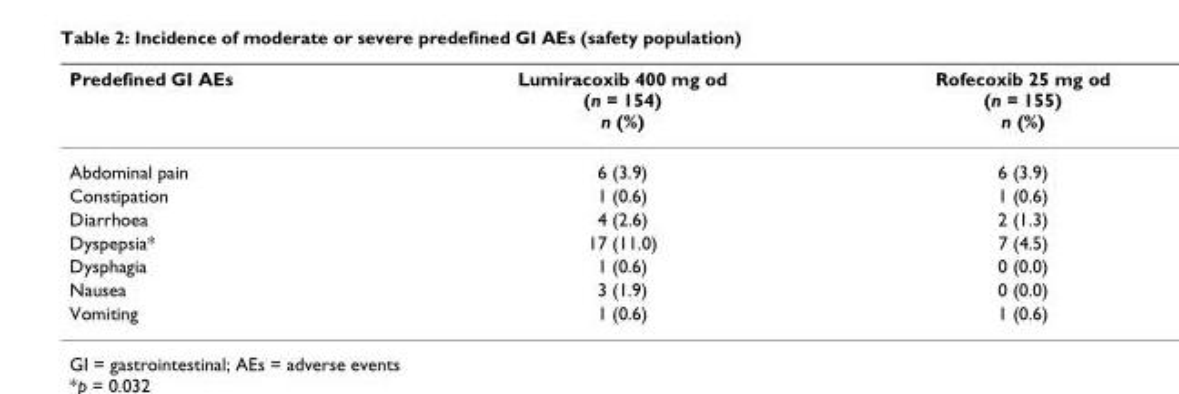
<table><thead><tr><td>Predefined GI AEs</td><td>Lumiracoxib 400 mg od (n = 154) n (%)</td><td>Rofecoxib 25 mg od (n = 155) n (%)</td></tr></thead><tbody><tr><td>Abdominal pain</td><td>6 (3.9)</td><td>6 (3.9)</td></tr><tr><td>Constipation</td><td>1 (0.6)</td><td>1 (0.6)</td></tr><tr><td>Diarrhoea</td><td>4 (2.6)</td><td>2 (1.3)</td></tr><tr><td>Dyspepsia*</td><td>17 (11.0)</td><td>7 (4.5)</td></tr><tr><td>Dysphagia</td><td>1 (0.6)</td><td>0 (0.0)</td></tr><tr><td>Nausea</td><td>3 (1.9)</td><td>0 (0.0)</td></tr><tr><td>Vomiting</td><td>1 (0.6)</td><td>1 (0.6)</td></tr></tbody></table>